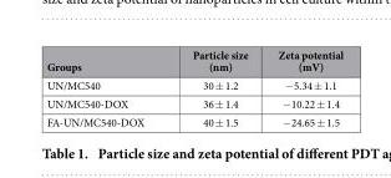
<table><thead><tr><td>Groups</td><td>Particle size (nm)</td><td>Zeta potential (mV)</td></tr></thead><tbody><tr><td>UN/MC540</td><td>30 ± 1.2</td><td>− 5.34 ± 1.1</td></tr><tr><td>UN/MC540-DOX</td><td>36 ± 1.4</td><td>− 10.22 ± 1.4</td></tr><tr><td>FA-UN/MC540-DOX</td><td>40 ± 1.5</td><td>− 24.65 ± 1.5</td></tr></tbody></table>